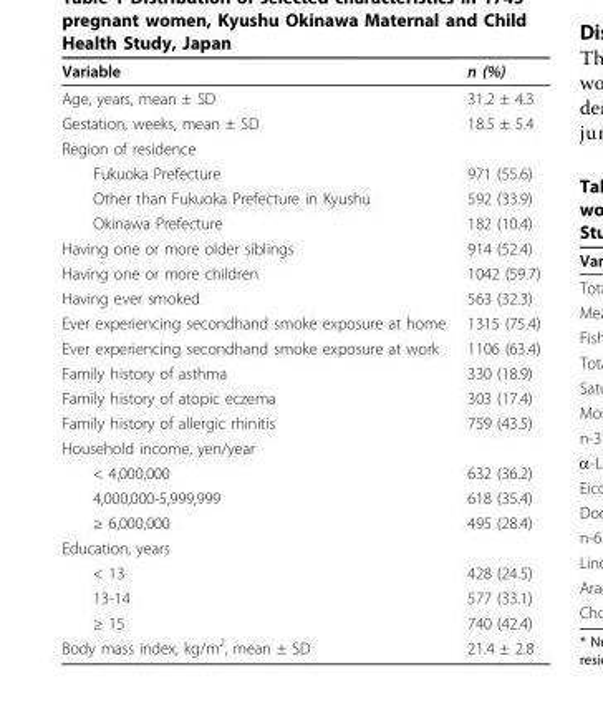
<table><thead><tr><td>Variable</td><td>n (%)</td></tr></thead><tbody><tr><td>Age, years, mean ± SD</td><td>31.2 ± 4.3</td></tr><tr><td>Gestation, weeks, mean ± SD</td><td>18.5 ± 5.4</td></tr><tr><td colspan="2">Region of residence</td></tr><tr><td>Fukuoka Prefecture</td><td>971 (55.6)</td></tr><tr><td>Other than Fukuoka Prefecture in Kyushu</td><td>592 (33.9)</td></tr><tr><td>Okinawa Prefecture</td><td>182 (10.4)</td></tr><tr><td>Having one or more older siblings</td><td>914 (52.4)</td></tr><tr><td>Having one or more children</td><td>1042 (59.7)</td></tr><tr><td>Having ever smoked</td><td>563 (32.3)</td></tr><tr><td>Ever experiencing secondhand smoke exposure at home</td><td>1315 (75.4)</td></tr><tr><td>Ever experiencing secondhand smoke exposure at work</td><td>1106 (63.4)</td></tr><tr><td>Family history of asthma</td><td>330 (18.9)</td></tr><tr><td>Family history of atopic eczema</td><td>303 (17.4)</td></tr><tr><td>Family history of allergic rhinitis</td><td>759 (43.5)</td></tr><tr><td colspan="2">Household income, yen/year</td></tr><tr><td>&lt; 4,000,000</td><td>632 (36.2)</td></tr><tr><td>4,000,000-5,999,999</td><td>618 (35.4)</td></tr><tr><td>≥ 6,000,000</td><td>495 (28.4)</td></tr><tr><td colspan="2">Education, years</td></tr><tr><td>&lt; 13</td><td>428 (24.5)</td></tr><tr><td>13-14</td><td>577 (33.1)</td></tr><tr><td>≥ 15</td><td>740 (42.4)</td></tr><tr><td>Body mass index, kg/m<sup>2</sup>, mean ± SD</td><td>21.4 ± 2.8</td></tr></tbody></table>